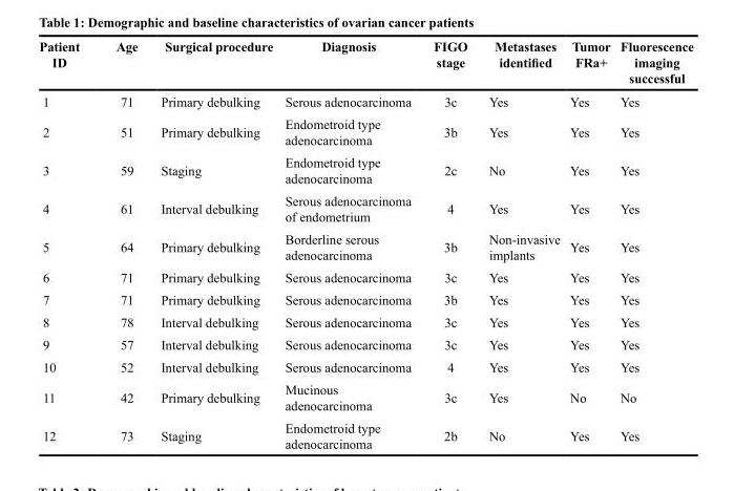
<table><thead><tr><td>Patient ID</td><td>Age</td><td>Surgical procedure</td><td>Diagnosis</td><td>FIGO stage</td><td>Metastases identified</td><td>Tumor FRa+</td><td>Fluorescence imaging successful</td></tr></thead><tbody><tr><td>1</td><td>71</td><td>Primary debulking</td><td>Serous adenocarcinoma</td><td>3c</td><td>Yes</td><td>Yes</td><td>Yes</td></tr><tr><td>2</td><td>51</td><td>Primary debulking</td><td>Endometroid type adenocarcinoma</td><td>3b</td><td>Yes</td><td>Yes</td><td>Yes</td></tr><tr><td>3</td><td>59</td><td>Staging</td><td>Endometroid type adenocarcinoma</td><td>2c</td><td>No</td><td>Yes</td><td>Yes</td></tr><tr><td>4</td><td>61</td><td>Interval debulking</td><td>Serous adenocarcinoma of endometrium</td><td>4</td><td>Yes</td><td>Yes</td><td>Yes</td></tr><tr><td>5</td><td>64</td><td>Primary debulking</td><td>Borderline serous adenocarcinoma</td><td>3b</td><td>Non-invasive implants</td><td>Yes</td><td>Yes</td></tr><tr><td>6</td><td>71</td><td>Primary debulking</td><td>Serous adenocarcinoma</td><td>3c</td><td>Yes</td><td>Yes</td><td>Yes</td></tr><tr><td>7</td><td>71</td><td>Primary debulking</td><td>Serous adenocarcinoma</td><td>3b</td><td>Yes</td><td>Yes</td><td>Yes</td></tr><tr><td>8</td><td>78</td><td>Interval debulking</td><td>Serous adenocarcinoma</td><td>3c</td><td>Yes</td><td>Yes</td><td>Yes</td></tr><tr><td>9</td><td>57</td><td>Interval debulking</td><td>Serous adenocarcinoma</td><td>3c</td><td>Yes</td><td>Yes</td><td>Yes</td></tr><tr><td>10</td><td>52</td><td>Interval debulking</td><td>Serous adenocarcinoma</td><td>4</td><td>Yes</td><td>Yes</td><td>Yes</td></tr><tr><td>11</td><td>42</td><td>Primary debulking</td><td>Mucinous adenocarcinoma</td><td>3c</td><td>Yes</td><td>No</td><td>No</td></tr><tr><td>12</td><td>73</td><td>Staging</td><td>Endometroid type adenocarcinoma</td><td>2b</td><td>No</td><td>Yes</td><td>Yes</td></tr></tbody></table>